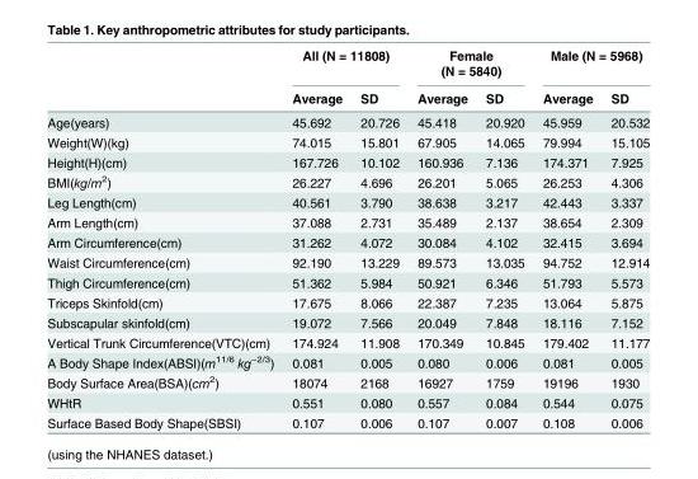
<table><thead><tr><td rowspan="2"></td><td colspan="2">All (N = 11808)</td><td colspan="2">Female (N = 5840)</td><td colspan="2">Male (N = 5968)</td></tr><tr><td>Average</td><td>SD</td><td>Average</td><td>SD</td><td>Average</td><td>SD</td></tr></thead><tbody><tr><td>Age(years)</td><td>45.692</td><td>20.726</td><td>45.418</td><td>20.920</td><td>45.959</td><td>20.532</td></tr><tr><td>Weight(W)(kg)</td><td>74.015</td><td>15.801</td><td>67.905</td><td>14.065</td><td>79.994</td><td>15.105</td></tr><tr><td>Height(H)(cm)</td><td>167.726</td><td>10.102</td><td>160.936</td><td>7.136</td><td>174.371</td><td>7.925</td></tr><tr><td>BMI(kg/m<sup>2</sup>)</td><td>26.227</td><td>4.696</td><td>26.201</td><td>5.065</td><td>26.253</td><td>4.306</td></tr><tr><td>Leg Length(cm)</td><td>40.561</td><td>3.790</td><td>38.638</td><td>3.217</td><td>42.443</td><td>3.337</td></tr><tr><td>Arm Length(cm)</td><td>37.088</td><td>2.731</td><td>35.489</td><td>2.137</td><td>38.654</td><td>2.309</td></tr><tr><td>Arm Circumference(cm)</td><td>31.262</td><td>4.072</td><td>30.084</td><td>4.102</td><td>32.415</td><td>3.694</td></tr><tr><td>Waist Circumference(cm)</td><td>92.190</td><td>13.229</td><td>89.573</td><td>13.035</td><td>94.752</td><td>12.914</td></tr><tr><td>Thigh Circumference(cm)</td><td>51.362</td><td>5.984</td><td>50.921</td><td>6.346</td><td>51.793</td><td>5.573</td></tr><tr><td>Triceps Skinfold(cm)</td><td>17.675</td><td>8.066</td><td>22.387</td><td>7.235</td><td>13.064</td><td>5.875</td></tr><tr><td>Subscapular skinfold(cm)</td><td>19.072</td><td>7.566</td><td>20.049</td><td>7.848</td><td>18.116</td><td>7.152</td></tr><tr><td>Vertical Trunk Circumference(VTC)(cm)</td><td>174.924</td><td>11.908</td><td>170.349</td><td>10.845</td><td>179.402</td><td>11.177</td></tr><tr><td>A Body Shape Index(ABSI)(m<sup>11/6</sup> kg<sup>−2/3</sup>)</td><td>0.081</td><td>0.005</td><td>0.080</td><td>0.006</td><td>0.081</td><td>0.005</td></tr><tr><td>Body Surface Area(BSA)(cm<sup>2</sup>)</td><td>18074</td><td>2168</td><td>16927</td><td>1759</td><td>19196</td><td>1930</td></tr><tr><td>WHtR</td><td>0.551</td><td>0.080</td><td>0.557</td><td>0.084</td><td>0.544</td><td>0.075</td></tr><tr><td>Surface Based Body Shape(SBSI)</td><td>0.107</td><td>0.006</td><td>0.107</td><td>0.007</td><td>0.108</td><td>0.006</td></tr></tbody></table>